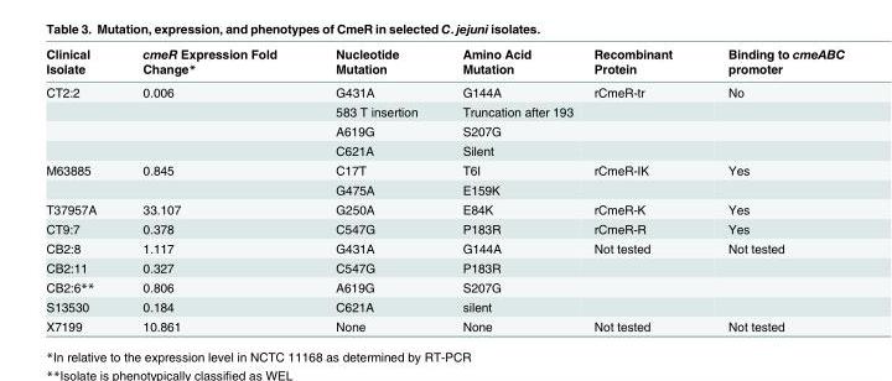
<table><thead><tr><td>Clinical Isolate</td><td>cmeR Expression Fold Change*</td><td>Nucleotide Mutation</td><td>Amino Acid Mutation</td><td>Recombinant Protein</td><td>Binding to cmeABC promoter</td></tr></thead><tbody><tr><td rowspan="4">CT2:2</td><td>0.006</td><td>G431A</td><td>G144A</td><td>rCmeR-tr</td><td>No</td></tr><tr><td></td><td>583 T insertion</td><td>Truncation after 193</td><td></td><td></td></tr><tr><td></td><td>A619G</td><td>S207G</td><td></td><td></td></tr><tr><td></td><td>C621A</td><td>Silent</td><td></td><td></td></tr><tr><td rowspan="2">M63885</td><td>0.845</td><td>C17T</td><td>T6I</td><td>rCmeR-IK</td><td>Yes</td></tr><tr><td></td><td>G475A</td><td>E159K</td><td></td><td></td></tr><tr><td>T37957A</td><td>33.107</td><td>G250A</td><td>E84K</td><td>rCmeR-K</td><td>Yes</td></tr><tr><td>CT9:7</td><td>0.378</td><td>C547G</td><td>P183R</td><td>rCmeR-R</td><td>Yes</td></tr><tr><td>CB2:8</td><td>1.117</td><td>G431A</td><td>G144A</td><td>Not tested</td><td>Not tested</td></tr><tr><td>CB2:11</td><td>0.327</td><td>C547G</td><td>P183R</td><td></td><td></td></tr><tr><td>CB2:6**</td><td>0.806</td><td>A619G</td><td>S207G</td><td></td><td></td></tr><tr><td>S13530</td><td>0.184</td><td>C621A</td><td>silent</td><td></td><td></td></tr><tr><td>X7199</td><td>10.861</td><td>None</td><td>None</td><td>Not tested</td><td>Not tested</td></tr></tbody></table>